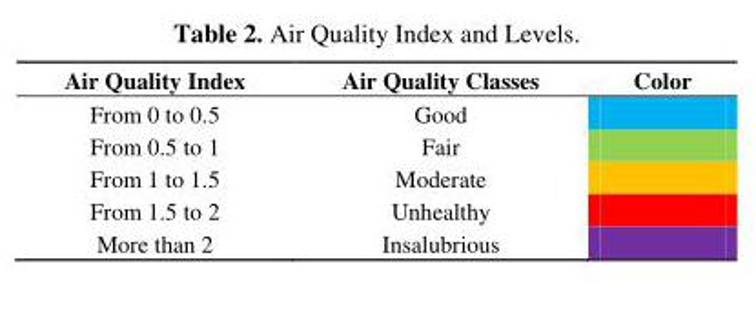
<table><thead><tr><td>Air Quality Index</td><td>Air Quality Classes</td><td>Color</td></tr></thead><tbody><tr><td>From 0 to 0.5</td><td>Good</td><td></td></tr><tr><td>From 0.5 to 1</td><td>Fair</td><td></td></tr><tr><td>From 1 to 1.5</td><td>Moderate</td><td></td></tr><tr><td>From 1.5 to 2</td><td>Unhealthy</td><td></td></tr><tr><td>More than 2</td><td>Insalubrious</td><td></td></tr></tbody></table>